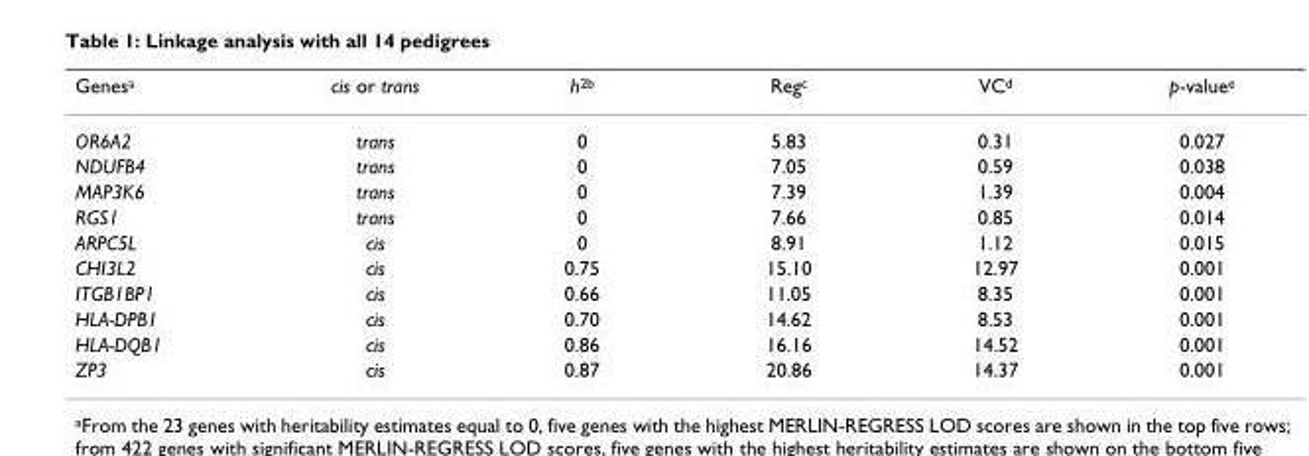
<table><thead><tr><td>Genes<sup>a</sup></td><td>cis or trans</td><td>h<sup>2b</sup></td><td>Reg<sup>c</sup></td><td>VC<sup>d</sup></td><td>p-value<sup>e</sup></td></tr></thead><tbody><tr><td>OR6A2</td><td>trans</td><td>0</td><td>5.83</td><td>0.31</td><td>0.027</td></tr><tr><td>NDUFB4</td><td>trans</td><td>0</td><td>7.05</td><td>0.59</td><td>0.038</td></tr><tr><td>MAP3K6</td><td>trans</td><td>0</td><td>7.39</td><td>1.39</td><td>0.004</td></tr><tr><td>RGS1</td><td>trans</td><td>0</td><td>7.66</td><td>0.85</td><td>0.014</td></tr><tr><td>ARPC5L</td><td>cis</td><td>0</td><td>8.91</td><td>1.12</td><td>0.015</td></tr><tr><td>CHI3L2</td><td>cis</td><td>0.75</td><td>15.10</td><td>12.97</td><td>0.001</td></tr><tr><td>ITGB1BP1</td><td>cis</td><td>0.66</td><td>11.05</td><td>8.35</td><td>0.001</td></tr><tr><td>HLA-DPB1</td><td>cis</td><td>0.70</td><td>14.62</td><td>8.53</td><td>0.001</td></tr><tr><td>HLA-DQB1</td><td>cis</td><td>0.86</td><td>16.16</td><td>14.52</td><td>0.001</td></tr><tr><td>ZP3</td><td>cis</td><td>0.87</td><td>20.86</td><td>14.37</td><td>0.001</td></tr></tbody></table>